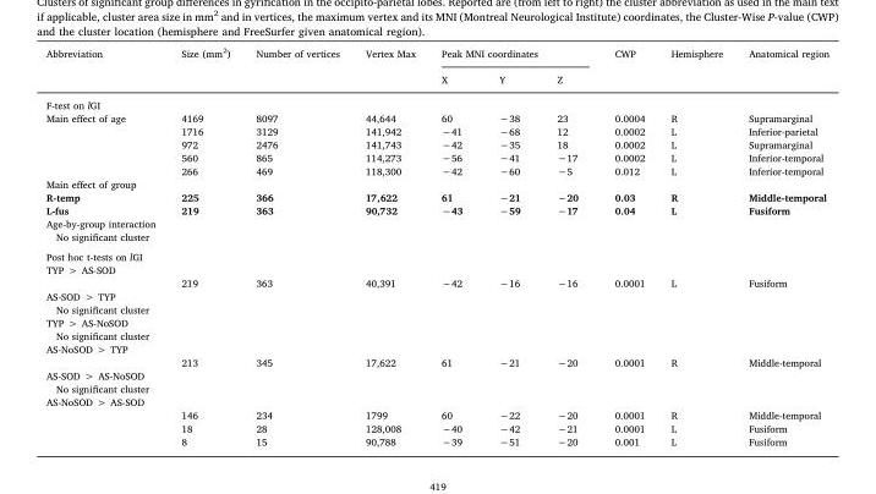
<table><thead><tr><td rowspan="2">Abbreviation</td><td rowspan="2">Size (mm<sup>2</sup>)</td><td rowspan="2">Number of vertices</td><td rowspan="2">Vertex Max</td><td colspan="3">Peak MNI coordinates</td><td rowspan="2">CWP</td><td rowspan="2">Hemisphere</td><td rowspan="2">Anatomical region</td></tr><tr><td>X</td><td>Y</td><td>Z</td></tr></thead><tbody><tr><td colspan="10">F-test on lGI</td></tr><tr><td rowspan="5">Main effect of age</td><td>4169</td><td>8097</td><td>44,644</td><td>60</td><td>−38</td><td>23</td><td>0.0004</td><td>R</td><td>Supramarginal</td></tr><tr><td>1716</td><td>3129</td><td>141,942</td><td>−41</td><td>−68</td><td>12</td><td>0.0002</td><td>L</td><td>Inferior-parietal</td></tr><tr><td>972</td><td>2476</td><td>141,743</td><td>−42</td><td>−35</td><td>18</td><td>0.0002</td><td>L</td><td>Supramarginal</td></tr><tr><td>560</td><td>865</td><td>114,273</td><td>−56</td><td>−41</td><td>−17</td><td>0.0002</td><td>L</td><td>Inferior-temporal</td></tr><tr><td>266</td><td>469</td><td>118,300</td><td>−42</td><td>−60</td><td>−5</td><td>0.012</td><td>L</td><td>Inferior-temporal</td></tr><tr><td colspan="10">Main effect of group</td></tr><tr><td>R-temp</td><td>225</td><td>366</td><td>17,622</td><td>61</td><td>−21</td><td>−20</td><td>0.03</td><td>R</td><td>Middle-temporal</td></tr><tr><td>L-fus</td><td>219</td><td>363</td><td>90,732</td><td>−43</td><td>−59</td><td>−17</td><td>0.04</td><td>L</td><td>Fusiform</td></tr><tr><td colspan="10">Age-by-group interaction</td></tr><tr><td colspan="10">No significant cluster</td></tr><tr><td colspan="10">Post hoc t-tests on lGI</td></tr><tr><td colspan="10">TYP &gt; AS-SOD</td></tr><tr><td></td><td>219</td><td>363</td><td>40,391</td><td>−42</td><td>−16</td><td>−16</td><td>0.0001</td><td>L</td><td>Fusiform</td></tr><tr><td colspan="10">AS-SOD &gt; TYP</td></tr><tr><td colspan="10">No significant cluster</td></tr><tr><td colspan="10">TYP &gt; AS-NoSOD</td></tr><tr><td colspan="10">No significant cluster</td></tr><tr><td colspan="10">AS-NoSOD &gt; TYP</td></tr><tr><td></td><td>213</td><td>345</td><td>17,622</td><td>61</td><td>−21</td><td>−20</td><td>0.0001</td><td>R</td><td>Middle-temporal</td></tr><tr><td colspan="10">AS-SOD &gt; AS-NoSOD</td></tr><tr><td colspan="10">No significant cluster</td></tr><tr><td colspan="10">AS-NoSOD &gt; AS-SOD</td></tr><tr><td></td><td>146</td><td>234</td><td>1799</td><td>60</td><td>−22</td><td>−20</td><td>0.0001</td><td>R</td><td>Middle-temporal</td></tr><tr><td></td><td>18</td><td>28</td><td>128,008</td><td>−40</td><td>−42</td><td>−21</td><td>0.0001</td><td>L</td><td>Fusiform</td></tr><tr><td></td><td>8</td><td>15</td><td>90,788</td><td>−39</td><td>−51</td><td>−20</td><td>0.001</td><td>L</td><td>Fusiform</td></tr></tbody></table>